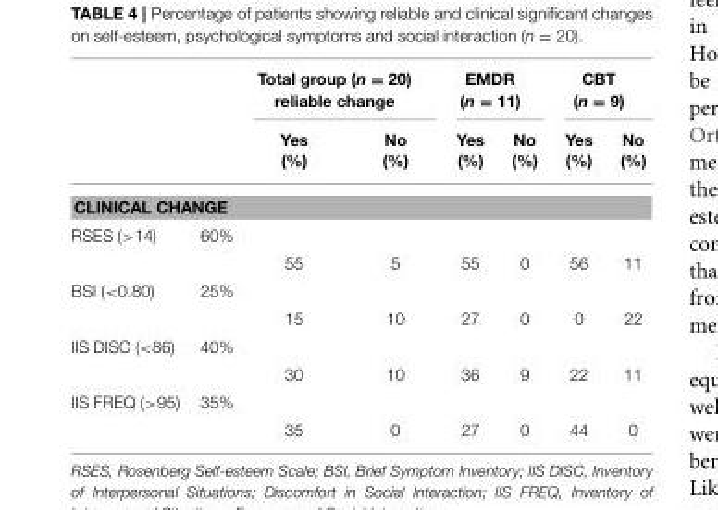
<table><thead><tr><td rowspan="3"></td><td rowspan="3"></td><td colspan="2">Total group (n = 20) reliable change</td><td colspan="2">EMDR (n = 11)</td><td colspan="2">CBT (n = 9)</td></tr><tr><td rowspan="2">Yes (%)</td><td rowspan="2">No (%)</td><td rowspan="2">Yes (%)</td><td rowspan="2">No (%)</td><td rowspan="2">Yes (%)</td><td rowspan="2">No (%)</td></tr><tr></tr></thead><tbody><tr><td colspan="8">CLINICAL CHANGE</td></tr><tr><td rowspan="2">RSES (&gt;14)</td><td>60%</td><td></td><td></td><td></td><td></td><td></td><td></td></tr><tr><td></td><td>55</td><td>5</td><td>55</td><td>0</td><td>56</td><td>11</td></tr><tr><td rowspan="2">BSI (&lt;0.80)</td><td>25%</td><td></td><td></td><td></td><td></td><td></td><td></td></tr><tr><td></td><td>15</td><td>10</td><td>27</td><td>0</td><td>0</td><td>22</td></tr><tr><td rowspan="2">IIS DISC (&lt;86)</td><td>40%</td><td></td><td></td><td></td><td></td><td></td><td></td></tr><tr><td></td><td>30</td><td>10</td><td>36</td><td>9</td><td>22</td><td>11</td></tr><tr><td rowspan="2">IIS FREQ (&gt;95)</td><td>35%</td><td></td><td></td><td></td><td></td><td></td><td></td></tr><tr><td></td><td>35</td><td>0</td><td>27</td><td>0</td><td>44</td><td>0</td></tr></tbody></table>